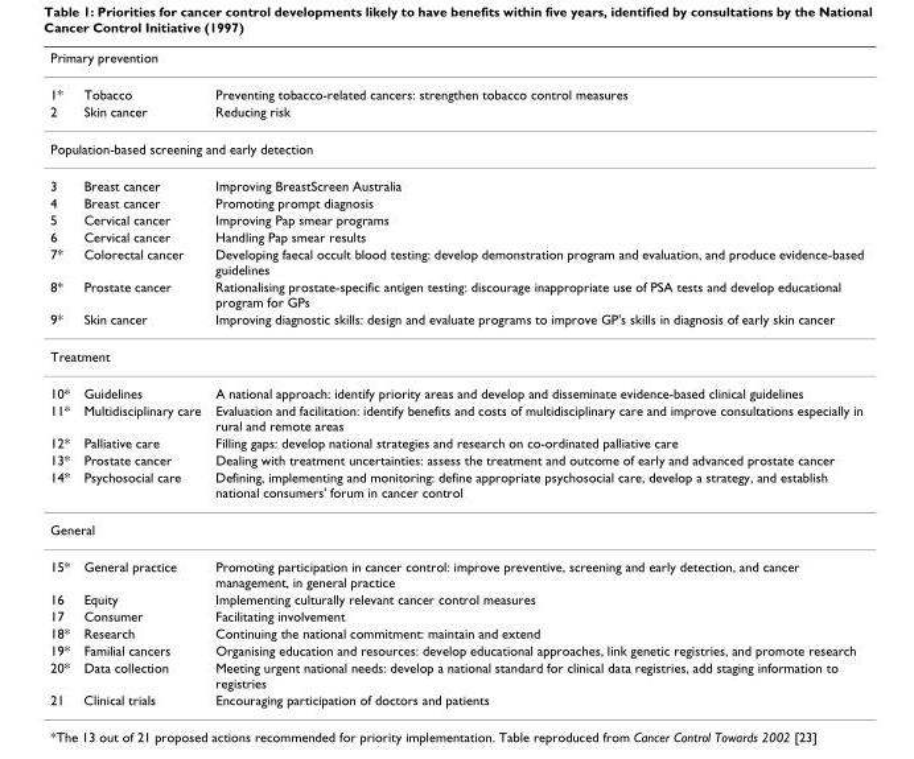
<table><thead><tr><td colspan="3">Primary prevention</td></tr><tr><td>1*</td><td>Tobacco</td><td>Preventing tobacco-related cancers: strengthen tobacco control measures</td></tr></thead><tbody><tr><td>2</td><td>Skin cancer</td><td>Reducing risk</td></tr><tr><td colspan="3">Population-based screening and early detection</td></tr><tr><td>3</td><td>Breast cancer</td><td>Improving BreastScreen Australia</td></tr><tr><td>4</td><td>Breast cancer</td><td>Promoting prompt diagnosis</td></tr><tr><td>5</td><td>Cervical cancer</td><td>Improving Pap smear programs</td></tr><tr><td>6</td><td>Cervical cancer</td><td>Handling Pap smear results</td></tr><tr><td>7*</td><td>Colorectal cancer</td><td>Developing faecal occult blood testing: develop demonstration program and evaluation, and produce evidence-based guidelines</td></tr><tr><td>8*</td><td>Prostate cancer</td><td>Rationalising prostate-specific antigen testing: discourage inappropriate use of PSA tests and develop educational program for GPs</td></tr><tr><td>9*</td><td>Skin cancer</td><td>Improving diagnostic skills: design and evaluate programs to improve GP&#x27;s skills in diagnosis of early skin cancer</td></tr><tr><td colspan="3">Treatment</td></tr><tr><td>10*</td><td>Guidelines</td><td>A national approach: identify priority areas and develop and disseminate evidence-based clinical guidelines</td></tr><tr><td>11*</td><td>Multidisciplinary care</td><td>Evaluation and facilitation: identify benefits and costs of multidisciplinary care and improve consultations especially in rural and remote areas</td></tr><tr><td>12*</td><td>Palliative care</td><td>Filling gaps: develop national strategies and research on co-ordinated palliative care</td></tr><tr><td>13*</td><td>Prostate cancer</td><td>Dealing with treatment uncertainties: assess the treatment and outcome of early and advanced prostate cancer</td></tr><tr><td>14*</td><td>Psychosocial care</td><td>Defining, implementing and monitoring: define appropriate psychosocial care, develop a strategy, and establish national consumers&#x27; forum in cancer control</td></tr><tr><td colspan="3">General</td></tr><tr><td>15*</td><td>General practice</td><td>Promoting participation in cancer control: improve preventive, screening and early detection, and cancer management, in general practice</td></tr><tr><td>16</td><td>Equity</td><td>Implementing culturally relevant cancer control measures</td></tr><tr><td>17</td><td>Consumer</td><td>Facilitating involvement</td></tr><tr><td>18*</td><td>Research</td><td>Continuing the national commitment: maintain and extend</td></tr><tr><td>19*</td><td>Familial cancers</td><td>Organising education and resources: develop educational approaches, link genetic registries, and promote research</td></tr><tr><td>20*</td><td>Data collection</td><td>Meeting urgent national needs: develop a national standard for clinical data registries, add staging information to registries</td></tr><tr><td>21</td><td>Clinical trials</td><td>Encouraging participation of doctors and patients</td></tr></tbody></table>